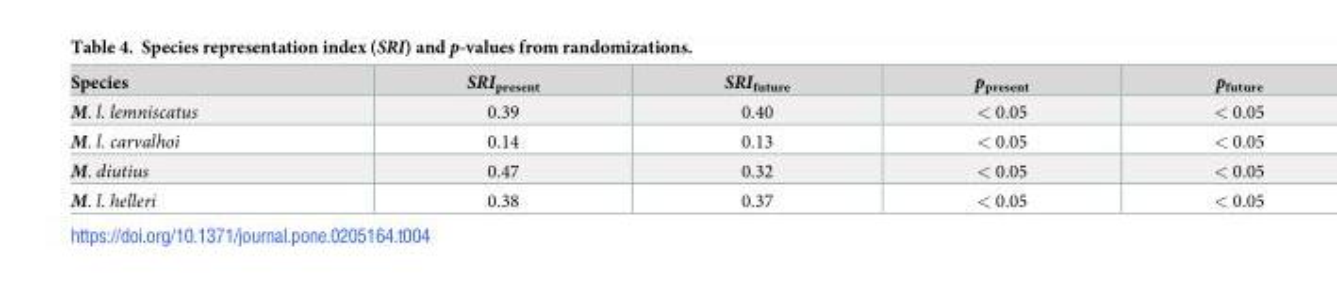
<table><thead><tr><td>Species</td><td>SRI<sub>present</sub></td><td>SRI<sub>future</sub></td><td>p<sub>present</sub></td><td>p<sub>future</sub></td></tr></thead><tbody><tr><td>M. l. lemniscatus</td><td>0.39</td><td>0.40</td><td>&lt; 0.05</td><td>&lt; 0.05</td></tr><tr><td>M. l. carvalhoi</td><td>0.14</td><td>0.13</td><td>&lt; 0.05</td><td>&lt; 0.05</td></tr><tr><td>M. diutius</td><td>0.47</td><td>0.32</td><td>&lt; 0.05</td><td>&lt; 0.05</td></tr><tr><td>M. l. helleri</td><td>0.38</td><td>0.37</td><td>&lt; 0.05</td><td>&lt; 0.05</td></tr></tbody></table>